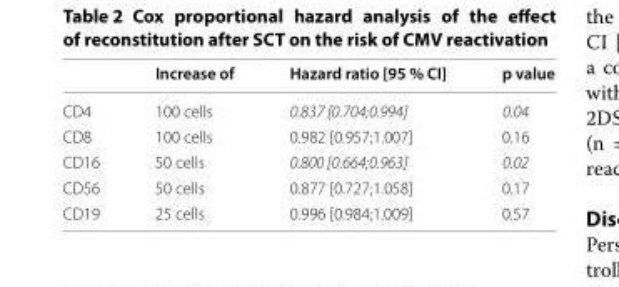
<table><thead><tr><td></td><td>Increase of</td><td>Hazard ratio [95 % CI]</td><td>p value</td></tr></thead><tbody><tr><td>CD4</td><td>100 cells</td><td>0.837 [0.704;0.994]</td><td>0.04</td></tr><tr><td>CD8</td><td>100 cells</td><td>0.982 [0.957;1.007]</td><td>0.16</td></tr><tr><td>CD16</td><td>50 cells</td><td>0.800 [0.664;0.963]</td><td>0.02</td></tr><tr><td>CD56</td><td>50 cells</td><td>0.877 [0.727;1.058]</td><td>0.17</td></tr><tr><td>CD19</td><td>25 cells</td><td>0.996 [0.984;1.009]</td><td>0.57</td></tr></tbody></table>